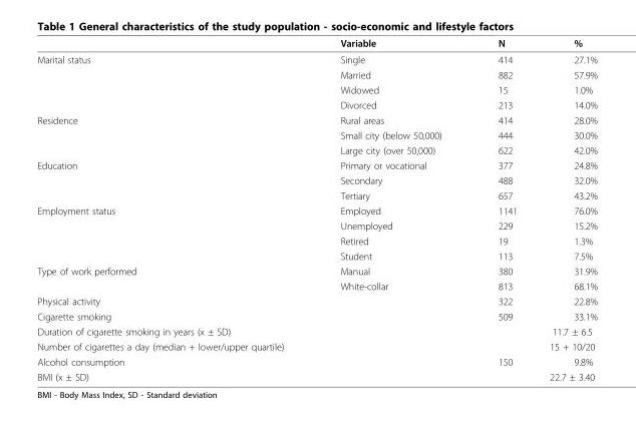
<table><thead><tr><td></td><td>Variable</td><td>N</td><td>%</td></tr></thead><tbody><tr><td rowspan="4">Marital status</td><td>Single</td><td>414</td><td>27.1%</td></tr><tr><td>Married</td><td>882</td><td>57.9%</td></tr><tr><td>Widowed</td><td>15</td><td>1.0%</td></tr><tr><td>Divorced</td><td>213</td><td>14.0%</td></tr><tr><td rowspan="3">Residence</td><td>Rural areas</td><td>414</td><td>28.0%</td></tr><tr><td>Small city (below 50,000)</td><td>444</td><td>30.0%</td></tr><tr><td>Large city (over 50,000)</td><td>622</td><td>42.0%</td></tr><tr><td rowspan="3">Education</td><td>Primary or vocational</td><td>377</td><td>24.8%</td></tr><tr><td>Secondary</td><td>488</td><td>32.0%</td></tr><tr><td>Tertiary</td><td>657</td><td>43.2%</td></tr><tr><td rowspan="4">Employment status</td><td>Employed</td><td>1141</td><td>76.0%</td></tr><tr><td>Unemployed</td><td>229</td><td>15.2%</td></tr><tr><td>Retired</td><td>19</td><td>1.3%</td></tr><tr><td>Student</td><td>113</td><td>7.5%</td></tr><tr><td rowspan="2">Type of work performed</td><td>Manual</td><td>380</td><td>31.9%</td></tr><tr><td>White-collar</td><td>813</td><td>68.1%</td></tr><tr><td>Physical activity</td><td></td><td>322</td><td>22.8%</td></tr><tr><td>Cigarette smoking</td><td></td><td>509</td><td>33.1%</td></tr><tr><td>Duration of cigarette smoking in years (x ± SD)</td><td></td><td colspan="2">11.7 ± 6.5</td></tr><tr><td>Number of cigarettes a day (median + lower/upper quartile)</td><td></td><td colspan="2">15 + 10/20</td></tr><tr><td>Alcohol consumption</td><td></td><td>150</td><td>9.8%</td></tr><tr><td>BMI (x ± SD)</td><td></td><td colspan="2">22.7 ± 3.40</td></tr></tbody></table>